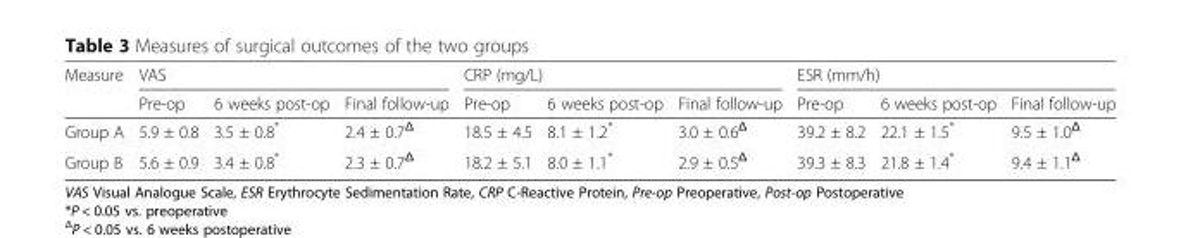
<table><thead><tr><td rowspan="2">Measure</td><td colspan="3">VAS</td><td colspan="3">CRP (mg/L)</td><td colspan="3">ESR (mm/h)</td></tr><tr><td>Pre-op</td><td>6 weeks post-op</td><td>Final follow-up</td><td>Pre-op</td><td>6 weeks post-op</td><td>Final follow-up</td><td>Pre-op</td><td>6 weeks post-op</td><td>Final follow-up</td></tr></thead><tbody><tr><td>Group A</td><td>5.9 ± 0.8</td><td>3.5 ± 0.8*</td><td>2.4 ± 0.7<sup>Δ</sup></td><td>18.5 ± 4.5</td><td>8.1 ± 1.2*</td><td>3.0 ± 0.6<sup>Δ</sup></td><td>39.2 ± 8.2</td><td>22.1 ± 1.5*</td><td>9.5 ± 1.0<sup>Δ</sup></td></tr><tr><td>Group B</td><td>5.6 ± 0.9</td><td>3.4 ± 0.8*</td><td>2.3 ± 0.7<sup>Δ</sup></td><td>18.2 ± 5.1</td><td>8.0 ± 1.1*</td><td>2.9 ± 0.5<sup>Δ</sup></td><td>39.3 ± 8.3</td><td>21.8 ± 1.4*</td><td>9.4 ± 1.1<sup>Δ</sup></td></tr></tbody></table>